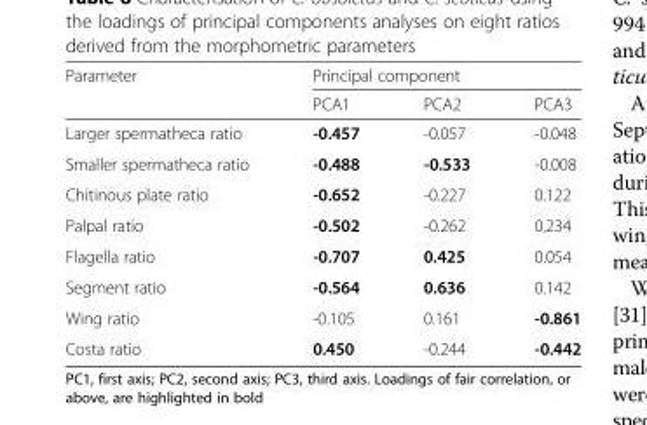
<table><thead><tr><td rowspan="2">Parameter</td><td colspan="3">Principal component</td></tr><tr><td>PCA1</td><td>PCA2</td><td>PCA3</td></tr></thead><tbody><tr><td>Larger spermatheca ratio</td><td>-0.457</td><td>-0.057</td><td>-0.048</td></tr><tr><td>Smaller spermatheca ratio</td><td>-0.488</td><td>-0.533</td><td>-0.008</td></tr><tr><td>Chitinous plate ratio</td><td>-0.652</td><td>-0.227</td><td>0.122</td></tr><tr><td>Palpal ratio</td><td>-0.502</td><td>-0.262</td><td>0.234</td></tr><tr><td>Flagella ratio</td><td>-0.707</td><td>0.425</td><td>0.054</td></tr><tr><td>Segment ratio</td><td>-0.564</td><td>0.636</td><td>0.142</td></tr><tr><td>Wing ratio</td><td>-0.105</td><td>0.161</td><td>-0.861</td></tr><tr><td>Costa ratio</td><td>0.450</td><td>-0.244</td><td>-0.442</td></tr></tbody></table>